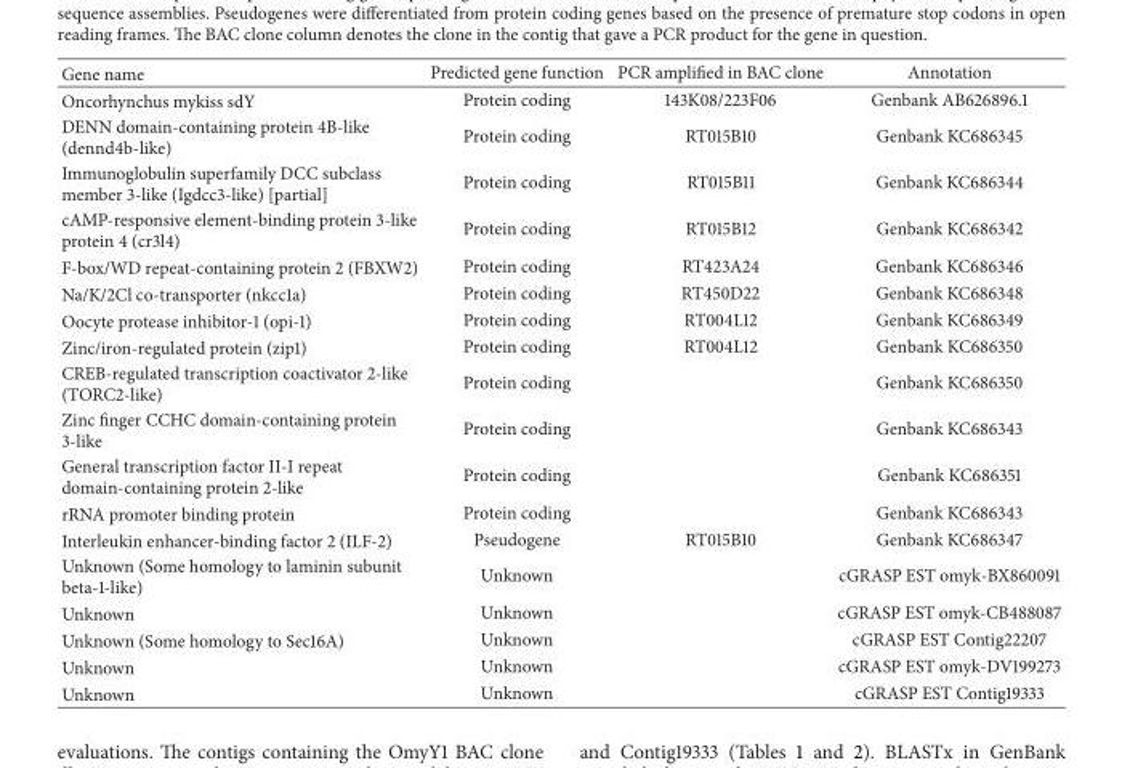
<table><thead><tr><td>Gene name</td><td>Predicted gene function</td><td>PCR amplified in BAC clone</td><td>Annotation</td></tr></thead><tbody><tr><td>Oncorhynchus mykiss sdY</td><td>Protein coding</td><td>143K08/223F06</td><td>Genbank AB626896.1</td></tr><tr><td>DENN domain-containing protein 4B-like (dennd4b-like)</td><td>Protein coding</td><td>RT015B10</td><td>Genbank KC686345</td></tr><tr><td>Immunoglobulin superfamily DCC subclass member 3-like (Igdcc3-like) [partial]</td><td>Protein coding</td><td>RT015B11</td><td>Genbank KC686344</td></tr><tr><td>cAMP-responsive element-binding protein 3-like protein 4 (cr3l4)</td><td>Protein coding</td><td>RT015B12</td><td>Genbank KC686342</td></tr><tr><td>F-box/WD repeat-containing protein 2 (FBXW2)</td><td>Protein coding</td><td>RT423A24</td><td>Genbank KC686346</td></tr><tr><td>Na/K/2Cl co-transporter (nkcc1a)</td><td>Protein coding</td><td>RT450D22</td><td>Genbank KC686348</td></tr><tr><td>Oocyte protease inhibitor-1 (opi-1)</td><td>Protein coding</td><td>RT004L12</td><td>Genbank KC686349</td></tr><tr><td>Zinc/iron-regulated protein (zip1)</td><td>Protein coding</td><td>RT004L12</td><td>Genbank KC686350</td></tr><tr><td>CREB-regulated transcription coactivator 2-like (TORC2-like)</td><td>Protein coding</td><td></td><td>Genbank KC686350</td></tr><tr><td>Zinc finger CCHC domain-containing protein 3-like</td><td>Protein coding</td><td></td><td>Genbank KC686343</td></tr><tr><td>General transcription factor II-I repeat domain-containing protein 2-like</td><td>Protein coding</td><td></td><td>Genbank KC686351</td></tr><tr><td>rRNA promoter binding protein</td><td>Protein coding</td><td></td><td>Genbank KC686343</td></tr><tr><td>Interleukin enhancer-binding factor 2 (ILF-2)</td><td>Pseudogene</td><td>RT015B10</td><td>Genbank KC686347</td></tr><tr><td>Unknown (Some homology to laminin subunit beta-1-like)</td><td>Unknown</td><td></td><td>cGRASP EST omyk-BX860091</td></tr><tr><td>Unknown</td><td>Unknown</td><td></td><td>cGRASP EST omyk-CB488087</td></tr><tr><td>Unknown (Some homology to Sec16A)</td><td>Unknown</td><td></td><td>cGRASP EST Contig22207</td></tr><tr><td>Unknown</td><td>Unknown</td><td></td><td>cGRASP EST omyk-DV199273</td></tr><tr><td>Unknown</td><td>Unknown</td><td></td><td>cGRASP EST Contig19333</td></tr></tbody></table>